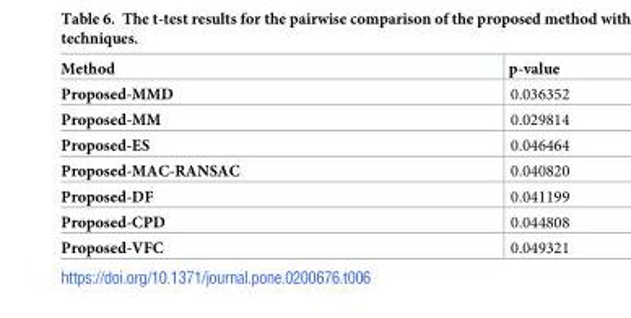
<table><thead><tr><td>Method</td><td>p-value</td></tr></thead><tbody><tr><td>Proposed-MMD</td><td>0.036352</td></tr><tr><td>Proposed-MM</td><td>0.029814</td></tr><tr><td>Proposed-ES</td><td>0.046464</td></tr><tr><td>Proposed-MAC-RANSAC</td><td>0.040820</td></tr><tr><td>Proposed-DF</td><td>0.041199</td></tr><tr><td>Proposed-CPD</td><td>0.044808</td></tr><tr><td>Proposed-VFC</td><td>0.049321</td></tr></tbody></table>